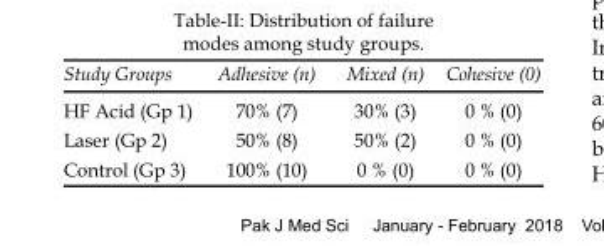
<table><thead><tr><td>Study Groups</td><td>Adhesive (n)</td><td>Mixed (n)</td><td>Cohesive (0)</td></tr></thead><tbody><tr><td>HF Acid (Gp 1)</td><td>70% (7)</td><td>30% (3)</td><td>0 % (0)</td></tr><tr><td>Laser (Gp 2)</td><td>50% (8)</td><td>50% (2)</td><td>0 % (0)</td></tr><tr><td>Control (Gp 3)</td><td>100% (10)</td><td>0 % (0)</td><td>0 % (0)</td></tr></tbody></table>